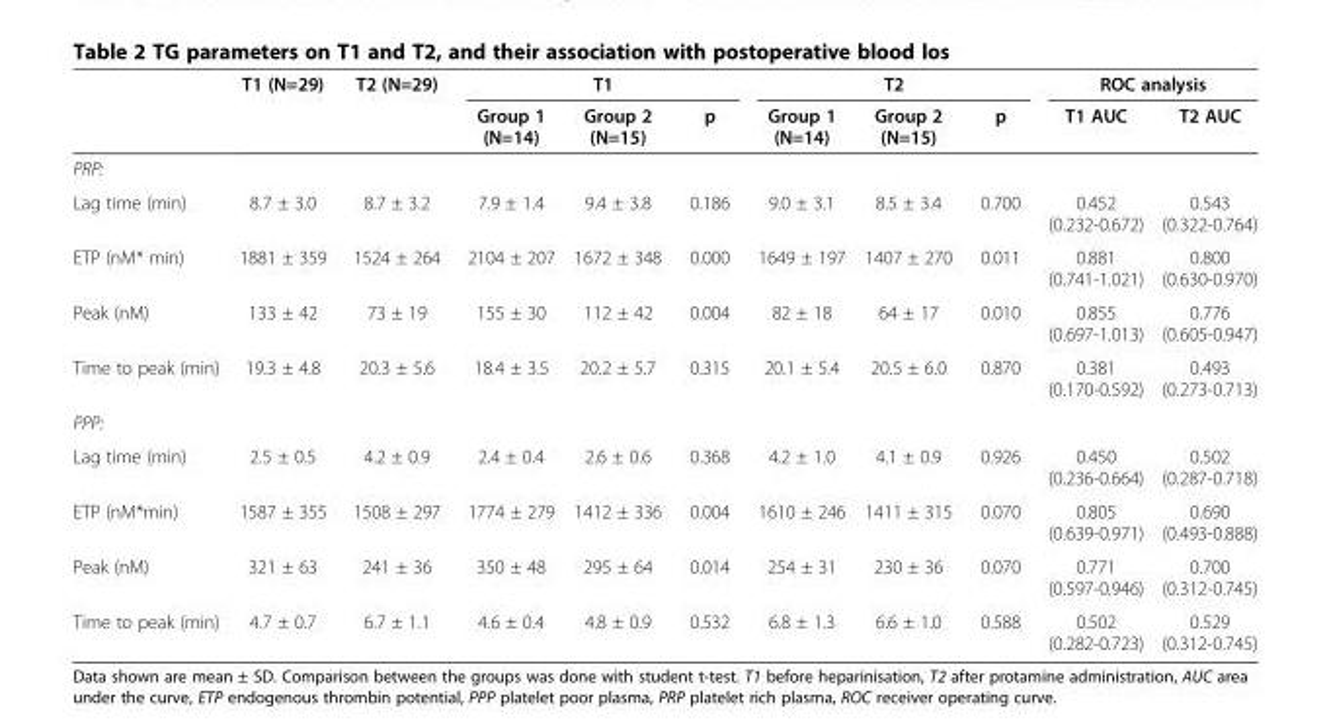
<table><thead><tr><td rowspan="2"></td><td rowspan="2">T1 (N=29)</td><td rowspan="2">T2 (N=29)</td><td colspan="3">T1</td><td colspan="3">T2</td><td colspan="2">ROC analysis</td></tr><tr><td>Group 1 (N=14)</td><td>Group 2 (N=15)</td><td>p</td><td>Group 1 (N=14)</td><td>Group 2 (N=15)</td><td>p</td><td>T1 AUC</td><td>T2 AUC</td></tr></thead><tbody><tr><td colspan="11">PRP:</td></tr><tr><td>Lag time (min)</td><td>8.7 ± 3.0</td><td>8.7 ± 3.2</td><td>7.9 ± 1.4</td><td>9.4 ± 3.8</td><td>0.186</td><td>9.0 ± 3.1</td><td>8.5 ± 3.4</td><td>0.700</td><td>0.452 (0.232-0.672)</td><td>0.543 (0.322-0.764)</td></tr><tr><td>ETP (nM* min)</td><td>1881 ± 359</td><td>1524 ± 264</td><td>2104 ± 207</td><td>1672 ± 348</td><td>0.000</td><td>1649 ± 197</td><td>1407 ± 270</td><td>0.011</td><td>0.881 (0.741-1.021)</td><td>0.800 (0.630-0.970)</td></tr><tr><td>Peak (nM)</td><td>133 ± 42</td><td>73 ± 19</td><td>155 ± 30</td><td>112 ± 42</td><td>0.004</td><td>82 ± 18</td><td>64 ± 17</td><td>0.010</td><td>0.855 (0.697-1.013)</td><td>0.776 (0.605-0.947)</td></tr><tr><td>Time to peak (min)</td><td>19.3 ± 4.8</td><td>20.3 ± 5.6</td><td>18.4 ± 3.5</td><td>20.2 ± 5.7</td><td>0.315</td><td>20.1 ± 5.4</td><td>20.5 ± 6.0</td><td>0.870</td><td>0.381 (0.170-0.592)</td><td>0.493 (0.273-0.713)</td></tr><tr><td colspan="11">PPP:</td></tr><tr><td>Lag time (min)</td><td>2.5 ± 0.5</td><td>4.2 ± 0.9</td><td>2.4 ± 0.4</td><td>2.6 ± 0.6</td><td>0.368</td><td>4.2 ± 1.0</td><td>4.1 ± 0.9</td><td>0.926</td><td>0.450 (0.236-0.664)</td><td>0.502 (0.287-0.718)</td></tr><tr><td>ETP (nM*min)</td><td>1587 ± 355</td><td>1508 ± 297</td><td>1774 ± 279</td><td>1412 ± 336</td><td>0.004</td><td>1610 ± 246</td><td>1411 ± 315</td><td>0.070</td><td>0.805 (0.639-0.971)</td><td>0.690 (0.493-0.888)</td></tr><tr><td>Peak (nM)</td><td>321 ± 63</td><td>241 ± 36</td><td>350 ± 48</td><td>295 ± 64</td><td>0.014</td><td>254 ± 31</td><td>230 ± 36</td><td>0.070</td><td>0.771 (0.597-0.946)</td><td>0.700 (0.312-0.745)</td></tr><tr><td>Time to peak (min)</td><td>4.7 ± 0.7</td><td>6.7 ± 1.1</td><td>4.6 ± 0.4</td><td>4.8 ± 0.9</td><td>0.532</td><td>6.8 ± 1.3</td><td>6.6 ± 1.0</td><td>0.588</td><td>0.502 (0.282-0.723)</td><td>0.529 (0.312-0.745)</td></tr></tbody></table>